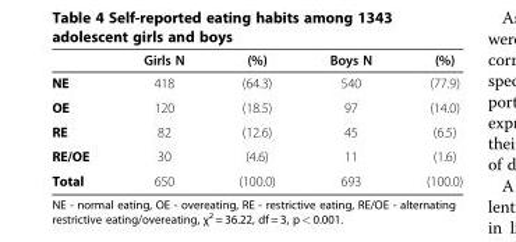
<table><thead><tr><td></td><td>Girls N</td><td>(%)</td><td>Boys N</td><td>(%)</td></tr></thead><tbody><tr><td>NE</td><td>418</td><td>(64.3)</td><td>540</td><td>(77.9)</td></tr><tr><td>OE</td><td>120</td><td>(18.5)</td><td>97</td><td>(14.0)</td></tr><tr><td>RE</td><td>82</td><td>(12.6)</td><td>45</td><td>(6.5)</td></tr><tr><td>RE/OE</td><td>30</td><td>(4.6)</td><td>11</td><td>(1.6)</td></tr><tr><td>Total</td><td>650</td><td>(100.0)</td><td>693</td><td>(100.0)</td></tr></tbody></table>